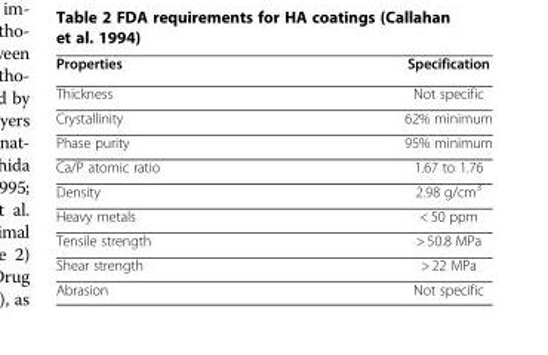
<table><thead><tr><td>Properties</td><td>Specification</td></tr></thead><tbody><tr><td>Thickness</td><td>Not specific</td></tr><tr><td>Crystallinity</td><td>62% minimum</td></tr><tr><td>Phase purity</td><td>95% minimum</td></tr><tr><td>Ca/P atomic ratio</td><td>1.67 to 1.76</td></tr><tr><td>Density</td><td>2.98 g/cm<sup>3</sup></td></tr><tr><td>Heavy metals</td><td>&lt; 50 ppm</td></tr><tr><td>Tensile strength</td><td>&gt; 50.8 MPa</td></tr><tr><td>Shear strength</td><td>&gt; 22 MPa</td></tr><tr><td>Abrasion</td><td>Not specific</td></tr></tbody></table>